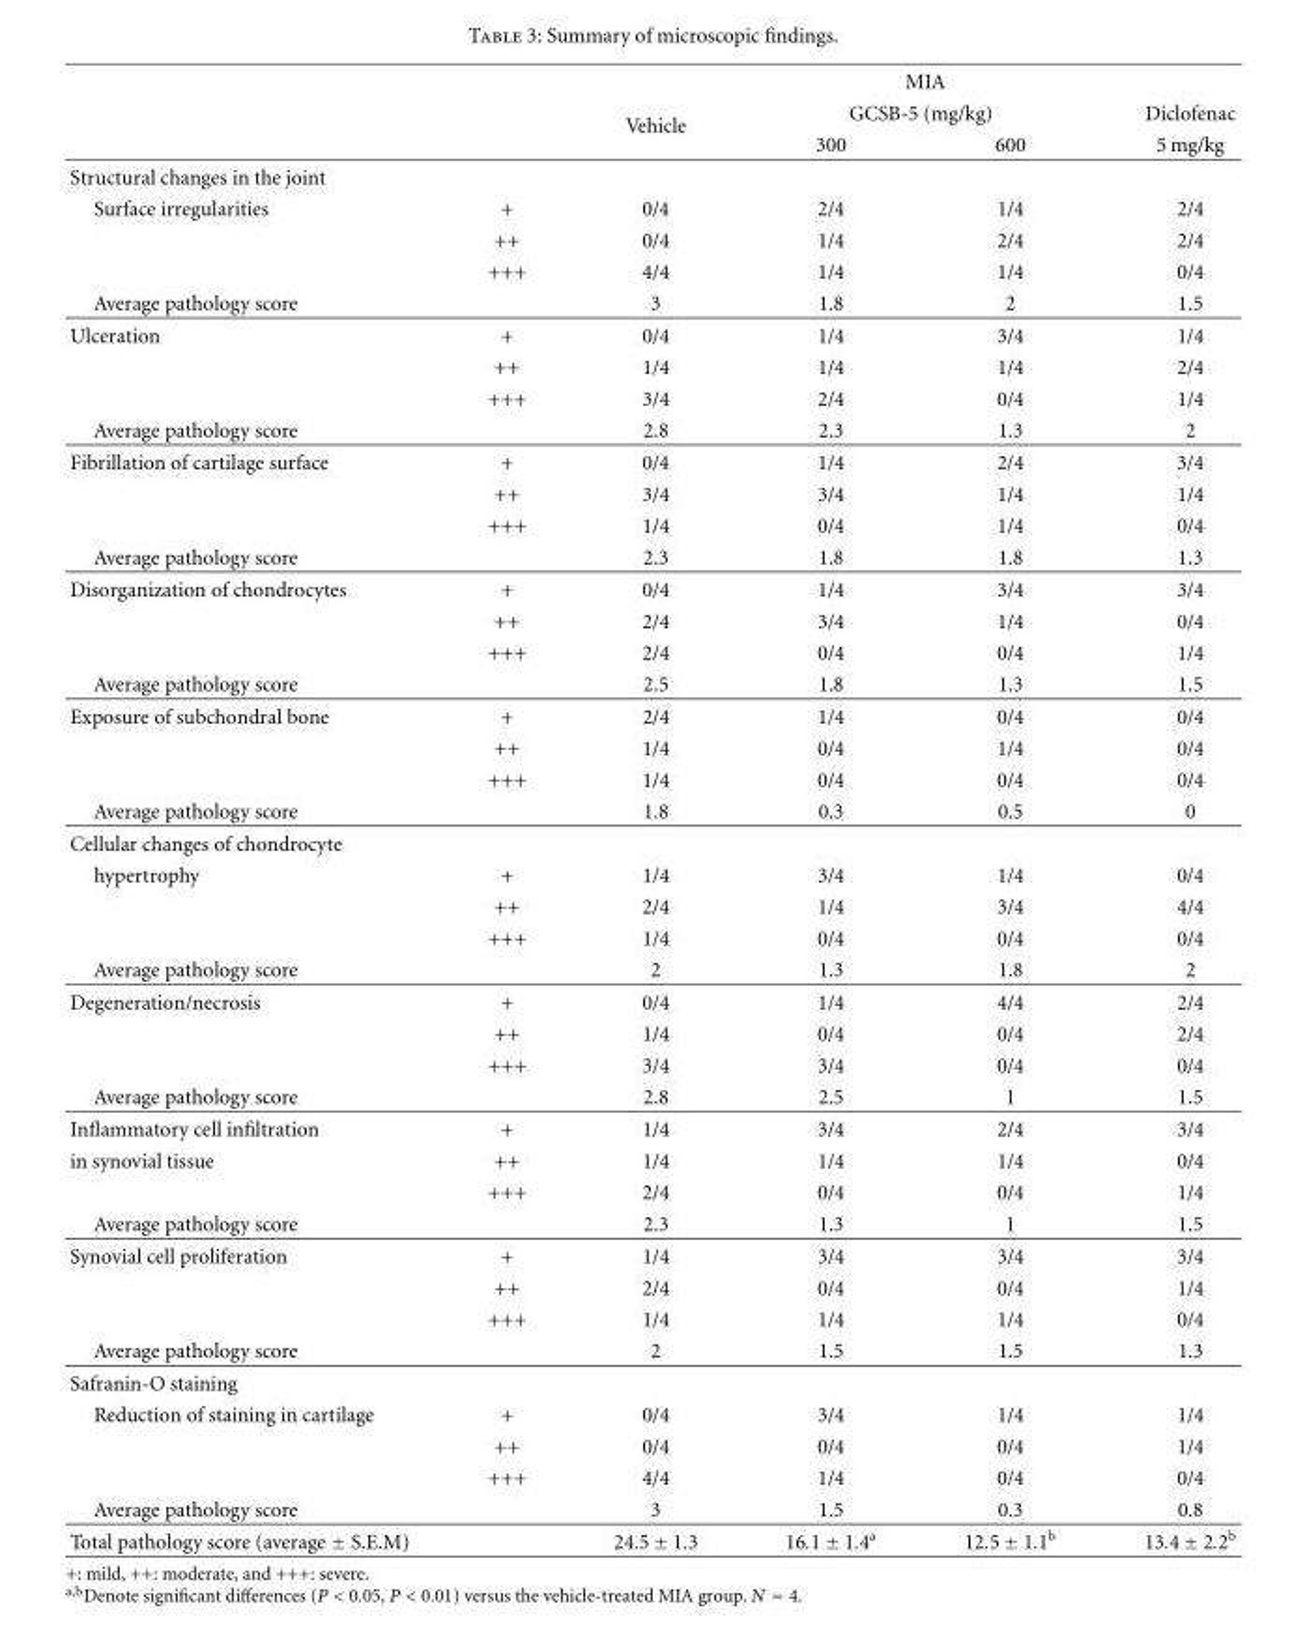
<table><thead><tr><td rowspan="3"></td><td rowspan="3"></td><td colspan="4">MIA</td></tr><tr><td rowspan="2">Vehicle</td><td colspan="2">GCSB-5 (mg/kg)</td><td rowspan="2">Diclofenac 5 mg/kg</td></tr><tr><td>300</td><td>600</td></tr></thead><tbody><tr><td colspan="6">Structural changes in the joint</td></tr><tr><td rowspan="3">Surface irregularities</td><td>+</td><td>0/4</td><td>2/4</td><td>1/4</td><td>2/4</td></tr><tr><td>++</td><td>0/4</td><td>1/4</td><td>2/4</td><td>2/4</td></tr><tr><td>+++</td><td>4/4</td><td>1/4</td><td>1/4</td><td>0/4</td></tr><tr><td>Average pathology score</td><td></td><td>3</td><td>1.8</td><td>2</td><td>1.5</td></tr><tr><td rowspan="3">Ulceration</td><td>+</td><td>0/4</td><td>1/4</td><td>3/4</td><td>1/4</td></tr><tr><td>++</td><td>1/4</td><td>1/4</td><td>1/4</td><td>2/4</td></tr><tr><td>+++</td><td>3/4</td><td>2/4</td><td>0/4</td><td>1/4</td></tr><tr><td>Average pathology score</td><td></td><td>2.8</td><td>2.3</td><td>1.3</td><td>2</td></tr><tr><td rowspan="3">Fibrillation of cartilage surface</td><td>+</td><td>0/4</td><td>1/4</td><td>2/4</td><td>3/4</td></tr><tr><td>++</td><td>3/4</td><td>3/4</td><td>1/4</td><td>1/4</td></tr><tr><td>+++</td><td>1/4</td><td>0/4</td><td>1/4</td><td>0/4</td></tr><tr><td>Average pathology score</td><td></td><td>2.3</td><td>1.8</td><td>1.8</td><td>1.3</td></tr><tr><td rowspan="3">Disorganization of chondrocytes</td><td>+</td><td>0/4</td><td>1/4</td><td>3/4</td><td>3/4</td></tr><tr><td>++</td><td>2/4</td><td>3/4</td><td>1/4</td><td>0/4</td></tr><tr><td>+++</td><td>2/4</td><td>0/4</td><td>0/4</td><td>1/4</td></tr><tr><td>Average pathology score</td><td></td><td>2.5</td><td>1.8</td><td>1.3</td><td>1.5</td></tr><tr><td rowspan="3">Exposure of subchondral bone</td><td>+</td><td>2/4</td><td>1/4</td><td>0/4</td><td>0/4</td></tr><tr><td>++</td><td>1/4</td><td>0/4</td><td>1/4</td><td>0/4</td></tr><tr><td>+++</td><td>1/4</td><td>0/4</td><td>0/4</td><td>0/4</td></tr><tr><td>Average pathology score</td><td></td><td>1.8</td><td>0.3</td><td>0.5</td><td>0</td></tr><tr><td colspan="6">Cellular changes of chondrocyte</td></tr><tr><td rowspan="3">hypertrophy</td><td>+</td><td>1/4</td><td>3/4</td><td>1/4</td><td>0/4</td></tr><tr><td>++</td><td>2/4</td><td>1/4</td><td>3/4</td><td>4/4</td></tr><tr><td>+++</td><td>1/4</td><td>0/4</td><td>0/4</td><td>0/4</td></tr><tr><td>Average pathology score</td><td></td><td>2</td><td>1.3</td><td>1.8</td><td>2</td></tr><tr><td rowspan="3">Degeneration/necrosis</td><td>+</td><td>0/4</td><td>1/4</td><td>4/4</td><td>2/4</td></tr><tr><td>++</td><td>1/4</td><td>0/4</td><td>0/4</td><td>2/4</td></tr><tr><td>+++</td><td>3/4</td><td>3/4</td><td>0/4</td><td>0/4</td></tr><tr><td>Average pathology score</td><td></td><td>2.8</td><td>2.5</td><td>1</td><td>1.5</td></tr><tr><td>Inflammatory cell infiltration</td><td>+</td><td>1/4</td><td>3/4</td><td>2/4</td><td>3/4</td></tr><tr><td rowspan="2">in synovial tissue</td><td>++</td><td>1/4</td><td>1/4</td><td>1/4</td><td>0/4</td></tr><tr><td>+++</td><td>2/4</td><td>0/4</td><td>0/4</td><td>1/4</td></tr><tr><td>Average pathology score</td><td></td><td>2.3</td><td>1.3</td><td>1</td><td>1.5</td></tr><tr><td rowspan="3">Synovial cell proliferation</td><td>+</td><td>1/4</td><td>3/4</td><td>3/4</td><td>3/4</td></tr><tr><td>++</td><td>2/4</td><td>0/4</td><td>0/4</td><td>1/4</td></tr><tr><td>+++</td><td>1/4</td><td>1/4</td><td>1/4</td><td>0/4</td></tr><tr><td>Average pathology score</td><td></td><td>2</td><td>1.5</td><td>1.5</td><td>1.3</td></tr><tr><td colspan="6">Safranin-O staining</td></tr><tr><td rowspan="3">Reduction of staining in cartilage</td><td>+</td><td>0/4</td><td>3/4</td><td>1/4</td><td>1/4</td></tr><tr><td>++</td><td>0/4</td><td>0/4</td><td>0/4</td><td>1/4</td></tr><tr><td>+++</td><td>4/4</td><td>1/4</td><td>0/4</td><td>0/4</td></tr><tr><td>Average pathology score</td><td></td><td>3</td><td>1.5</td><td>0.3</td><td>0.8</td></tr><tr><td>Total pathology score (average ± S.E.M)</td><td></td><td>24.5 ± 1.3</td><td>16.1 ± 1.4<sup>a</sup></td><td>12.5 ± 1.1<sup>b</sup></td><td>13.4 ± 2.2<sup>b</sup></td></tr></tbody></table>